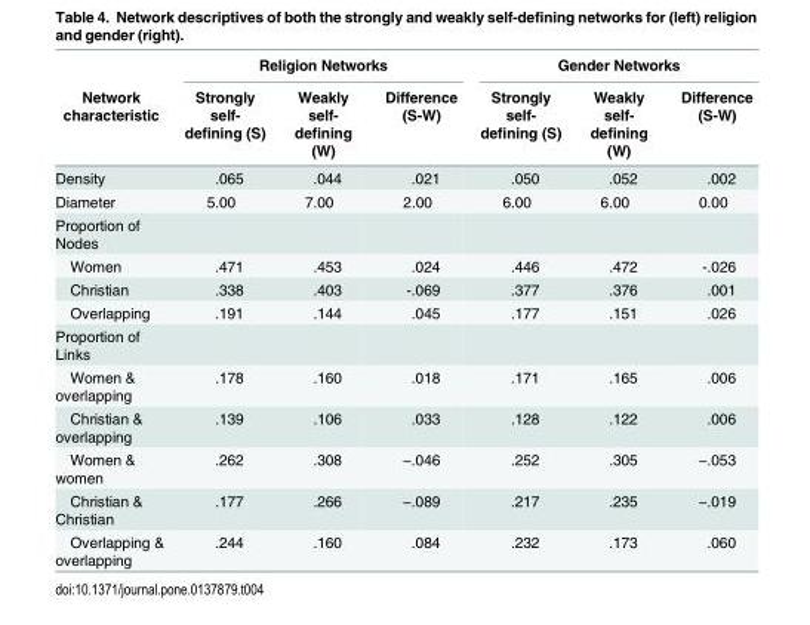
<table><thead><tr><td rowspan="2">Network characteristic</td><td colspan="3">Religion Networks</td><td colspan="3">Gender Networks</td></tr><tr><td>Strongly self- defining (S)</td><td>Weakly self- defining (W)</td><td>Difference (S-W)</td><td>Strongly self- defining (S)</td><td>Weakly self- defining (W)</td><td>Difference (S-W)</td></tr></thead><tbody><tr><td>Density</td><td>.065</td><td>.044</td><td>.021</td><td>.050</td><td>.052</td><td>.002</td></tr><tr><td>Diameter</td><td>5.00</td><td>7.00</td><td>2.00</td><td>6.00</td><td>6.00</td><td>0.00</td></tr><tr><td colspan="7">Proportion of Nodes</td></tr><tr><td>Women</td><td>.471</td><td>.453</td><td>.024</td><td>.446</td><td>.472</td><td>-.026</td></tr><tr><td>Christian</td><td>.338</td><td>.403</td><td>-.069</td><td>.377</td><td>.376</td><td>.001</td></tr><tr><td>Overlapping</td><td>.191</td><td>.144</td><td>.045</td><td>.177</td><td>.151</td><td>.026</td></tr><tr><td colspan="7">Proportion of Links</td></tr><tr><td>Women &amp; overlapping</td><td>.178</td><td>.160</td><td>.018</td><td>.171</td><td>.165</td><td>.006</td></tr><tr><td>Christian &amp; overlapping</td><td>.139</td><td>.106</td><td>.033</td><td>.128</td><td>.122</td><td>.006</td></tr><tr><td>Women &amp; women</td><td>.262</td><td>.308</td><td>−.046</td><td>.252</td><td>.305</td><td>−.053</td></tr><tr><td>Christian &amp; Christian</td><td>.177</td><td>.266</td><td>−.089</td><td>.217</td><td>.235</td><td>−.019</td></tr><tr><td>Overlapping &amp; overlapping</td><td>.244</td><td>.160</td><td>.084</td><td>.232</td><td>.173</td><td>.060</td></tr></tbody></table>